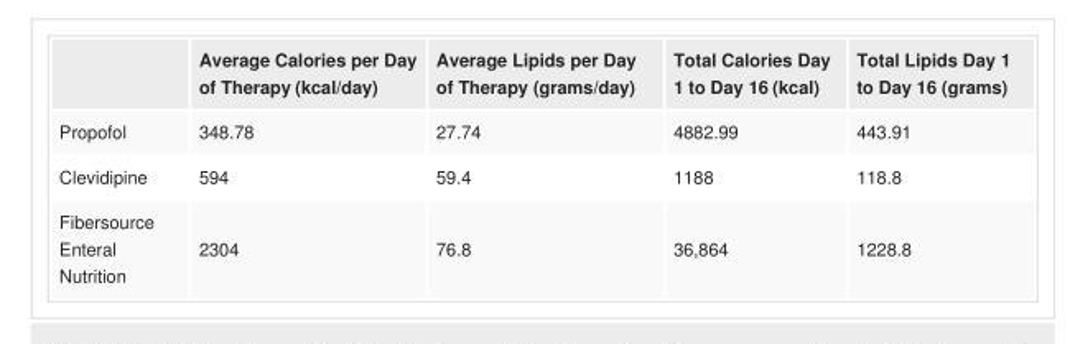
<table><thead><tr><td></td><td>Average Calories per Day of Therapy (kcal/day)</td><td>Average Lipids per Day of Therapy (grams/day)</td><td>Total Calories Day 1 to Day 16 (kcal)</td><td>Total Lipids Day 1 to Day 16 (grams)</td></tr></thead><tbody><tr><td>Propofol</td><td>348.78</td><td>27.74</td><td>4882.99</td><td>443.91</td></tr><tr><td>Clevidipine</td><td>594</td><td>59.4</td><td>1188</td><td>118.8</td></tr><tr><td>Fibersource Enteral Nutrition</td><td>2304</td><td>76.8</td><td>36,864</td><td>1228.8</td></tr></tbody></table>